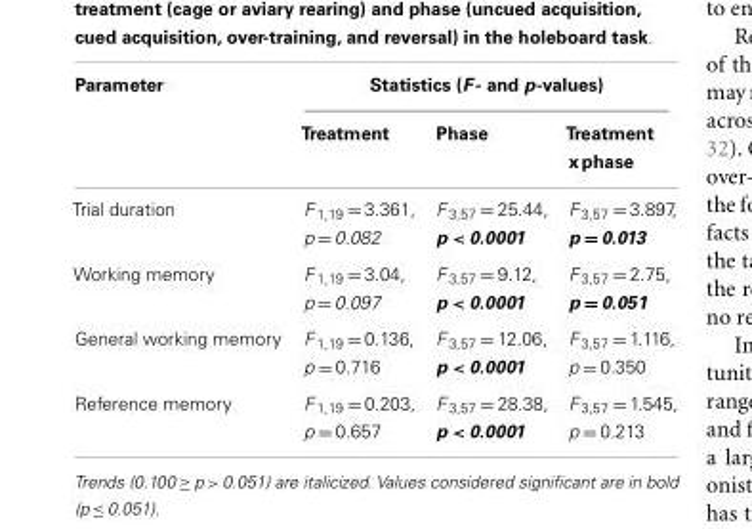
<table><thead><tr><td rowspan="2">Parameter</td><td colspan="3">Statistics (F - and p-values)</td></tr><tr><td>Treatment</td><td>Phase</td><td>Treatment x phase</td></tr></thead><tbody><tr><td>Trial duration</td><td>F <sub>1,19</sub> = 3.361, p = 0.082</td><td>F <sub>3,57</sub> = 25.44, p &lt; 0.0001</td><td>F <sub>3,57</sub> = 3.897, p = 0.013</td></tr><tr><td>Working memory</td><td>F <sub>1,19</sub> = 3.04, p = 0.097</td><td>F <sub>3,57</sub> = 9.12, p &lt; 0.0001</td><td>F <sub>3,57</sub> = 2.75, p = 0.051</td></tr><tr><td>General working memory</td><td>F <sub>1,19</sub> = 0.136, p = 0.716</td><td>F <sub>3,57</sub> = 12.06, p &lt; 0.0001</td><td>F <sub>3,57</sub> = 1.116, p = 0.350</td></tr><tr><td>Reference memory</td><td>F <sub>1,19</sub> = 0.203, p = 0.657</td><td>F <sub>3,57</sub> = 28.38, p &lt; 0.0001</td><td>F <sub>3,57</sub> = 1.545, p = 0.213</td></tr></tbody></table>